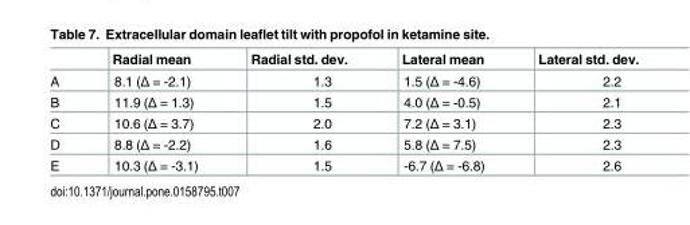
<table><thead><tr><td></td><td>Radial mean</td><td>Radial std. dev.</td><td>Lateral mean</td><td>Lateral std. dev.</td></tr></thead><tbody><tr><td>A</td><td>8.1 (Δ = -2.1)</td><td>1.3</td><td>1.5 (Δ = -4.6)</td><td>2.2</td></tr><tr><td>B</td><td>11.9 (Δ = 1.3)</td><td>1.5</td><td>4.0 (Δ = -0.5)</td><td>2.1</td></tr><tr><td>C</td><td>10.6 (Δ = 3.7)</td><td>2.0</td><td>7.2 (Δ = 3.1)</td><td>2.3</td></tr><tr><td>D</td><td>8.8 (Δ = -2.2)</td><td>1.6</td><td>5.8 (Δ = 7.5)</td><td>2.3</td></tr><tr><td>E</td><td>10.3 (Δ = -3.1)</td><td>1.5</td><td>-6.7 (Δ = -6.8)</td><td>2.6</td></tr></tbody></table>